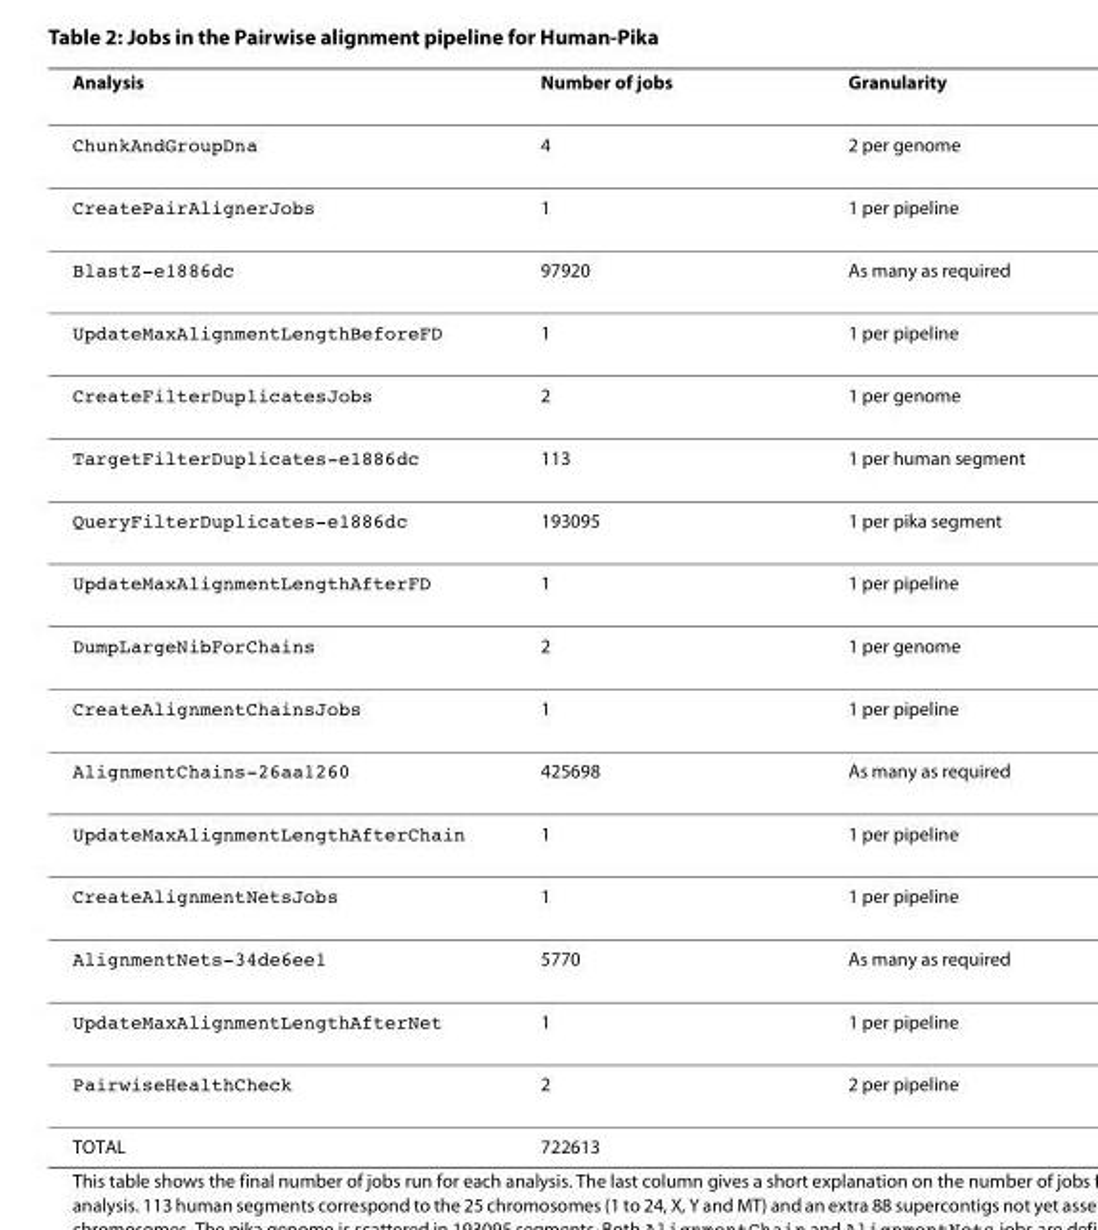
<table><thead><tr><td>Analysis</td><td>Number of jobs</td><td>Granularity</td></tr></thead><tbody><tr><td>ChunkAndGroupDna</td><td>4</td><td>2 per genome</td></tr><tr><td>CreatePairAlignerJobs</td><td>1</td><td>1 per pipeline</td></tr><tr><td>BlastZ-e1886dc</td><td>97920</td><td>As many as required</td></tr><tr><td>UpdateMaxAlignmentLengthBeforeFD</td><td>1</td><td>1 per pipeline</td></tr><tr><td>CreateFilterDuplicatesJobs</td><td>2</td><td>1 per genome</td></tr><tr><td>TargetFilterDuplicates-e1886dc</td><td>113</td><td>1 per human segment</td></tr><tr><td>QueryFilterDuplicates-e1886dc</td><td>193095</td><td>1 per pika segment</td></tr><tr><td>UpdateMaxAlignmentLengthAfterFD</td><td>1</td><td>1 per pipeline</td></tr><tr><td>DumpLargeNibForChains</td><td>2</td><td>1 per genome</td></tr><tr><td>CreateAlignmentChainsJobs</td><td>1</td><td>1 per pipeline</td></tr><tr><td>AlignmentChains-26aa1260</td><td>425698</td><td>As many as required</td></tr><tr><td>UpdateMaxAlignmentLengthAfterChain</td><td>1</td><td>1 per pipeline</td></tr><tr><td>CreateAlignmentNetsJobs</td><td>1</td><td>1 per pipeline</td></tr><tr><td>AlignmentNets-34de6ee1</td><td>5770</td><td>As many as required</td></tr><tr><td>UpdateMaxAlignmentLengthAfterNet</td><td>1</td><td>1 per pipeline</td></tr><tr><td>PairwiseHealthCheck</td><td>2</td><td>2 per pipeline</td></tr><tr><td>TOTAL</td><td>722613</td><td></td></tr></tbody></table>